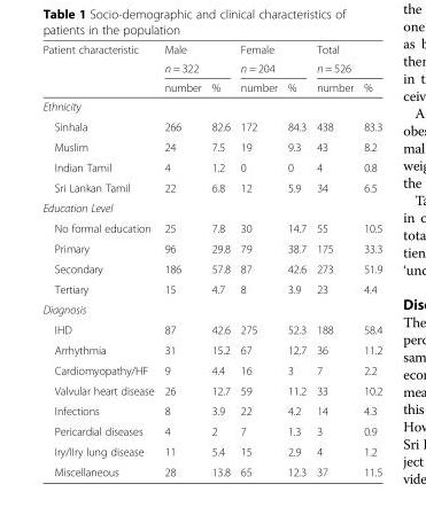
<table><thead><tr><td rowspan="3">Patient characteristic</td><td>Male</td><td></td><td>Female</td><td></td><td>Total</td><td></td></tr><tr><td colspan="2">n = 322</td><td colspan="2">n = 204</td><td colspan="2">n = 526</td></tr><tr><td>number</td><td>%</td><td>number</td><td>%</td><td>number</td><td>%</td></tr></thead><tbody><tr><td colspan="7">Ethnicity</td></tr><tr><td>Sinhala</td><td>266</td><td>82.6</td><td>172</td><td>84.3</td><td>438</td><td>83.3</td></tr><tr><td>Muslim</td><td>24</td><td>7.5</td><td>19</td><td>9.3</td><td>43</td><td>8.2</td></tr><tr><td>Indian Tamil</td><td>4</td><td>1.2</td><td>0</td><td>0</td><td>4</td><td>0.8</td></tr><tr><td>Sri Lankan Tamil</td><td>22</td><td>6.8</td><td>12</td><td>5.9</td><td>34</td><td>6.5</td></tr><tr><td colspan="7">Education Level</td></tr><tr><td>No formal education</td><td>25</td><td>7.8</td><td>30</td><td>14.7</td><td>55</td><td>10.5</td></tr><tr><td>Primary</td><td>96</td><td>29.8</td><td>79</td><td>38.7</td><td>175</td><td>33.3</td></tr><tr><td>Secondary</td><td>186</td><td>57.8</td><td>87</td><td>42.6</td><td>273</td><td>51.9</td></tr><tr><td>Tertiary</td><td>15</td><td>4.7</td><td>8</td><td>3.9</td><td>23</td><td>4.4</td></tr><tr><td colspan="7">Diagnosis</td></tr><tr><td>IHD</td><td>87</td><td>42.6</td><td>275</td><td>52.3</td><td>188</td><td>58.4</td></tr><tr><td>Arrhythmia</td><td>31</td><td>15.2</td><td>67</td><td>12.7</td><td>36</td><td>11.2</td></tr><tr><td>Cardiomyopathy/HF</td><td>9</td><td>4.4</td><td>16</td><td>3</td><td>7</td><td>2.2</td></tr><tr><td>Valvular heart disease</td><td>26</td><td>12.7</td><td>59</td><td>11.2</td><td>33</td><td>10.2</td></tr><tr><td>Infections</td><td>8</td><td>3.9</td><td>22</td><td>4.2</td><td>14</td><td>4.3</td></tr><tr><td>Pericardial diseases</td><td>4</td><td>2</td><td>7</td><td>1.3</td><td>3</td><td>0.9</td></tr><tr><td>Iry/IIry lung disease</td><td>11</td><td>5.4</td><td>15</td><td>2.9</td><td>4</td><td>1.2</td></tr><tr><td>Miscellaneous</td><td>28</td><td>13.8</td><td>65</td><td>12.3</td><td>37</td><td>11.5</td></tr></tbody></table>